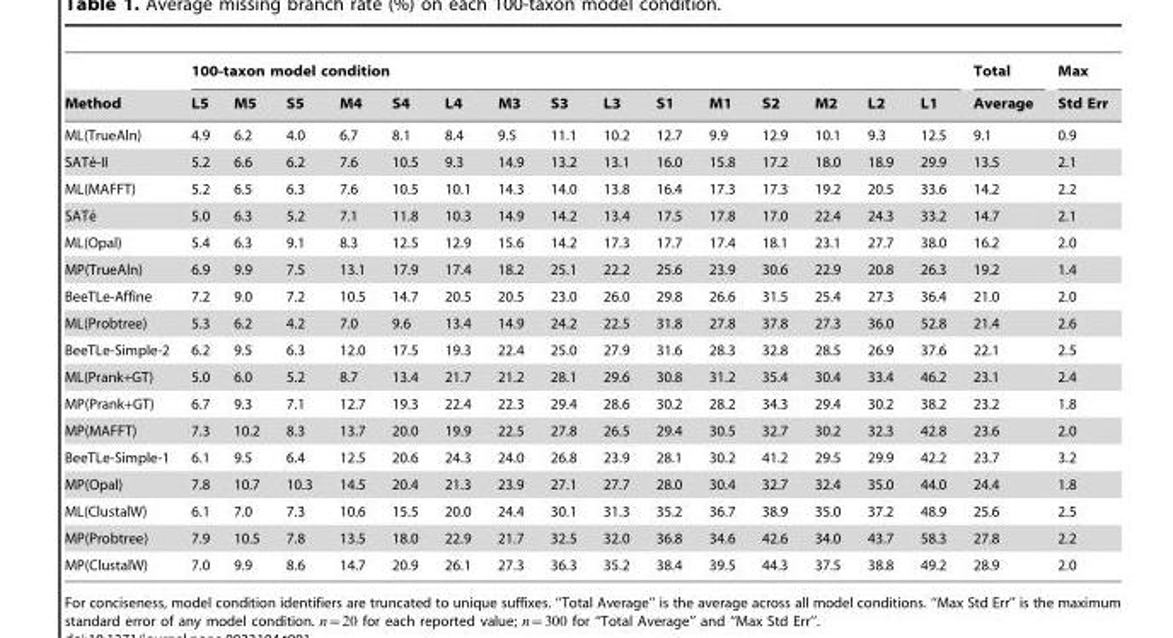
<table><thead><tr><td rowspan="2">Method</td><td colspan="15">100-taxon model condition</td><td rowspan="2">Total Average</td><td rowspan="2">Max Std Err</td></tr><tr><td>L5</td><td>M5</td><td>S5</td><td>M4</td><td>S4</td><td>L4</td><td>M3</td><td>S3</td><td>L3</td><td>S1</td><td>M1</td><td>S2</td><td>M2</td><td>L2</td><td>L1</td></tr></thead><tbody><tr><td>ML(TrueAln)</td><td>4.9</td><td>6.2</td><td>4.0</td><td>6.7</td><td>8.1</td><td>8.4</td><td>9.5</td><td>11.1</td><td>10.2</td><td>12.7</td><td>9.9</td><td>12.9</td><td>10.1</td><td>9.3</td><td>12.5</td><td>9.1</td><td>0.9</td></tr><tr><td>SATe´-II</td><td>5.2</td><td>6.6</td><td>6.2</td><td>7.6</td><td>10.5</td><td>9.3</td><td>14.9</td><td>13.2</td><td>13.1</td><td>16.0</td><td>15.8</td><td>17.2</td><td>18.0</td><td>18.9</td><td>29.9</td><td>13.5</td><td>2.1</td></tr><tr><td>ML(MAFFT)</td><td>5.2</td><td>6.5</td><td>6.3</td><td>7.6</td><td>10.5</td><td>10.1</td><td>14.3</td><td>14.0</td><td>13.8</td><td>16.4</td><td>17.3</td><td>17.3</td><td>19.2</td><td>20.5</td><td>33.6</td><td>14.2</td><td>2.2</td></tr><tr><td>SATe´</td><td>5.0</td><td>6.3</td><td>5.2</td><td>7.1</td><td>11.8</td><td>10.3</td><td>14.9</td><td>14.2</td><td>13.4</td><td>17.5</td><td>17.8</td><td>17.0</td><td>22.4</td><td>24.3</td><td>33.2</td><td>14.7</td><td>2.1</td></tr><tr><td>ML(Opal)</td><td>5.4</td><td>6.3</td><td>9.1</td><td>8.3</td><td>12.5</td><td>12.9</td><td>15.6</td><td>14.2</td><td>17.3</td><td>17.7</td><td>17.4</td><td>18.1</td><td>23.1</td><td>27.7</td><td>38.0</td><td>16.2</td><td>2.0</td></tr><tr><td>MP(TrueAln)</td><td>6.9</td><td>9.9</td><td>7.5</td><td>13.1</td><td>17.9</td><td>17.4</td><td>18.2</td><td>25.1</td><td>22.2</td><td>25.6</td><td>23.9</td><td>30.6</td><td>22.9</td><td>20.8</td><td>26.3</td><td>19.2</td><td>1.4</td></tr><tr><td>BeeTLe-Affine</td><td>7.2</td><td>9.0</td><td>7.2</td><td>10.5</td><td>14.7</td><td>20.5</td><td>20.5</td><td>23.0</td><td>26.0</td><td>29.8</td><td>26.6</td><td>31.5</td><td>25.4</td><td>27.3</td><td>36.4</td><td>21.0</td><td>2.0</td></tr><tr><td>ML(Probtree)</td><td>5.3</td><td>6.2</td><td>4.2</td><td>7.0</td><td>9.6</td><td>13.4</td><td>14.9</td><td>24.2</td><td>22.5</td><td>31.8</td><td>27.8</td><td>37.8</td><td>27.3</td><td>36.0</td><td>52.8</td><td>21.4</td><td>2.6</td></tr><tr><td>BeeTLe-Simple-2</td><td>6.2</td><td>9.5</td><td>6.3</td><td>12.0</td><td>17.5</td><td>19.3</td><td>22.4</td><td>25.0</td><td>27.9</td><td>31.6</td><td>28.3</td><td>32.8</td><td>28.5</td><td>26.9</td><td>37.6</td><td>22.1</td><td>2.5</td></tr><tr><td>ML(Prank+GT)</td><td>5.0</td><td>6.0</td><td>5.2</td><td>8.7</td><td>13.4</td><td>21.7</td><td>21.2</td><td>28.1</td><td>29.6</td><td>30.8</td><td>31.2</td><td>35.4</td><td>30.4</td><td>33.4</td><td>46.2</td><td>23.1</td><td>2.4</td></tr><tr><td>MP(Prank+GT)</td><td>6.7</td><td>9.3</td><td>7.1</td><td>12.7</td><td>19.3</td><td>22.4</td><td>22.3</td><td>29.4</td><td>28.6</td><td>30.2</td><td>28.2</td><td>34.3</td><td>29.4</td><td>30.2</td><td>38.2</td><td>23.2</td><td>1.8</td></tr><tr><td>MP(MAFFT)</td><td>7.3</td><td>10.2</td><td>8.3</td><td>13.7</td><td>20.0</td><td>19.9</td><td>22.5</td><td>27.8</td><td>26.5</td><td>29.4</td><td>30.5</td><td>32.7</td><td>30.2</td><td>32.3</td><td>42.8</td><td>23.6</td><td>2.0</td></tr><tr><td>BeeTLe-Simple-1</td><td>6.1</td><td>9.5</td><td>6.4</td><td>12.5</td><td>20.6</td><td>24.3</td><td>24.0</td><td>26.8</td><td>23.9</td><td>28.1</td><td>30.2</td><td>41.2</td><td>29.5</td><td>29.9</td><td>42.2</td><td>23.7</td><td>3.2</td></tr><tr><td>MP(Opal)</td><td>7.8</td><td>10.7</td><td>10.3</td><td>14.5</td><td>20.4</td><td>21.3</td><td>23.9</td><td>27.1</td><td>27.7</td><td>28.0</td><td>30.4</td><td>32.7</td><td>32.4</td><td>35.0</td><td>44.0</td><td>24.4</td><td>1.8</td></tr><tr><td>ML(ClustalW)</td><td>6.1</td><td>7.0</td><td>7.3</td><td>10.6</td><td>15.5</td><td>20.0</td><td>24.4</td><td>30.1</td><td>31.3</td><td>35.2</td><td>36.7</td><td>38.9</td><td>35.0</td><td>37.2</td><td>48.9</td><td>25.6</td><td>2.5</td></tr><tr><td>MP(Probtree)</td><td>7.9</td><td>10.5</td><td>7.8</td><td>13.5</td><td>18.0</td><td>22.9</td><td>21.7</td><td>32.5</td><td>32.0</td><td>36.8</td><td>34.6</td><td>42.6</td><td>34.0</td><td>43.7</td><td>58.3</td><td>27.8</td><td>2.2</td></tr><tr><td>MP(ClustalW)</td><td>7.0</td><td>9.9</td><td>8.6</td><td>14.7</td><td>20.9</td><td>26.1</td><td>27.3</td><td>36.3</td><td>35.2</td><td>38.4</td><td>39.5</td><td>44.3</td><td>37.5</td><td>38.8</td><td>49.2</td><td>28.9</td><td>2.0</td></tr></tbody></table>